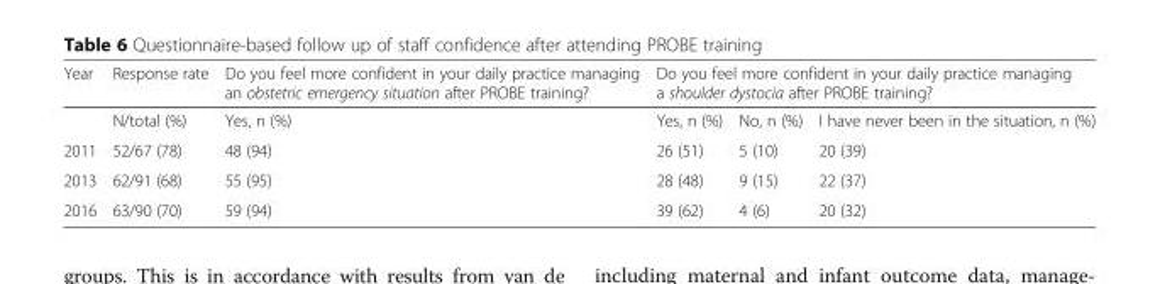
<table><thead><tr><td rowspan="2">Year</td><td rowspan="2">Response rate N/total (%)</td><td rowspan="2">Do you feel more confident in your daily practice managing an obstetric emergency situation after PROBE training? Yes, n (%)</td><td colspan="3">Do you feel more confident in your daily practice managing a shoulder dystocia after PROBE training?</td></tr><tr><td>Yes, n (%)</td><td>No, n (%)</td><td>I have never been in the situation, n (%)</td></tr></thead><tbody><tr><td>2011</td><td>52/67 (78)</td><td>48 (94)</td><td>26 (51)</td><td>5 (10)</td><td>20 (39)</td></tr><tr><td>2013</td><td>62/91 (68)</td><td>55 (95)</td><td>28 (48)</td><td>9 (15)</td><td>22 (37)</td></tr><tr><td>2016</td><td>63/90 (70)</td><td>59 (94)</td><td>39 (62)</td><td>4 (6)</td><td>20 (32)</td></tr></tbody></table>